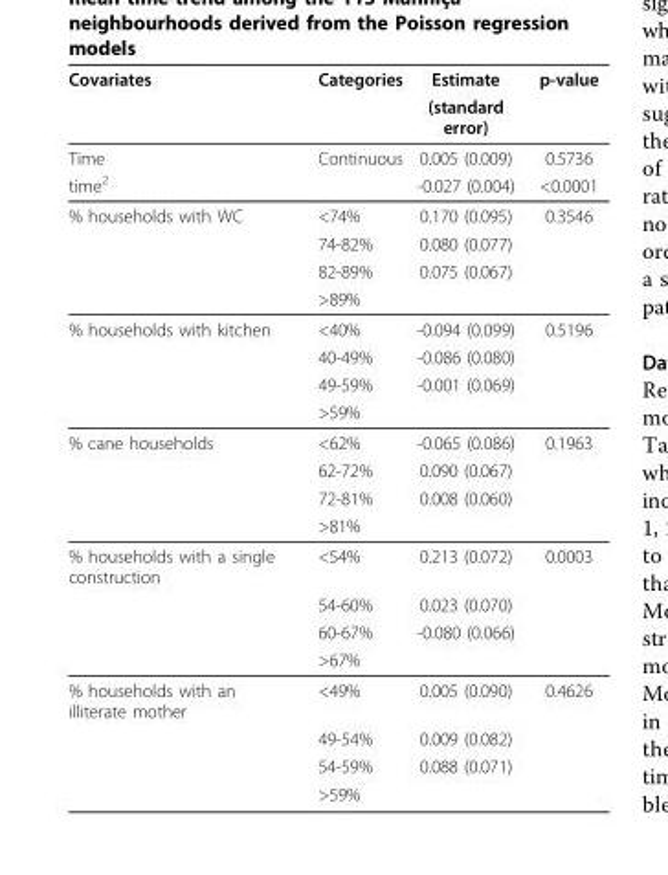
<table><thead><tr><td rowspan="2">Covariates</td><td rowspan="2">Categories</td><td rowspan="2">Estimate (standard error)</td><td rowspan="2">p-value</td></tr><tr></tr></thead><tbody><tr><td>Time</td><td>Continuous</td><td>0.005 (0.009)</td><td>0.5736</td></tr><tr><td>time<sup>2</sup></td><td></td><td>-0.027 (0.004)</td><td>&lt;0.0001</td></tr><tr><td rowspan="4">% households with WC</td><td>&lt;74%</td><td>0.170 (0.095)</td><td>0.3546</td></tr><tr><td>74-82%</td><td>0.080 (0.077)</td><td></td></tr><tr><td>82-89%</td><td>0.075 (0.067)</td><td></td></tr><tr><td>&gt;89%</td><td></td><td></td></tr><tr><td rowspan="4">% households with kitchen</td><td>&lt;40%</td><td>-0.094 (0.099)</td><td>0.5196</td></tr><tr><td>40-49%</td><td>-0.086 (0.080)</td><td></td></tr><tr><td>49-59%</td><td>-0.001 (0.069)</td><td></td></tr><tr><td>&gt;59%</td><td></td><td></td></tr><tr><td rowspan="4">% cane households</td><td>&lt;62%</td><td>-0.065 (0.086)</td><td>0.1963</td></tr><tr><td>62-72%</td><td>0.090 (0.067)</td><td></td></tr><tr><td>72-81%</td><td>0.008 (0.060)</td><td></td></tr><tr><td>&gt;81%</td><td></td><td></td></tr><tr><td rowspan="4">% households with a single construction</td><td>&lt;54%</td><td>0.213 (0.072)</td><td>0.0003</td></tr><tr><td>54-60%</td><td>0.023 (0.070)</td><td></td></tr><tr><td>60-67%</td><td>-0.080 (0.066)</td><td></td></tr><tr><td>&gt;67%</td><td></td><td></td></tr><tr><td rowspan="4">% households with an illiterate mother</td><td>&lt;49%</td><td>0.005 (0.090)</td><td>0.4626</td></tr><tr><td>49-54%</td><td>0.009 (0.082)</td><td></td></tr><tr><td>54-59%</td><td>0.088 (0.071)</td><td></td></tr><tr><td>&gt;59%</td><td></td><td></td></tr></tbody></table>